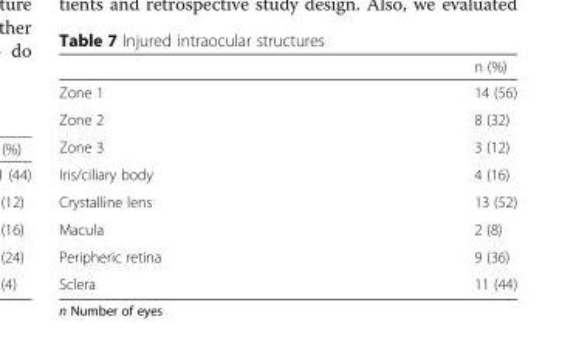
<table><thead><tr><td></td><td>n (%)</td></tr></thead><tbody><tr><td>Zone 1</td><td>14 (56)</td></tr><tr><td>Zone 2</td><td>8 (32)</td></tr><tr><td>Zone 3</td><td>3 (12)</td></tr><tr><td>Iris/ciliary body</td><td>4 (16)</td></tr><tr><td>Crystalline lens</td><td>13 (52)</td></tr><tr><td>Macula</td><td>2 (8)</td></tr><tr><td>Peripheric retina</td><td>9 (36)</td></tr><tr><td>Sclera</td><td>11 (44)</td></tr></tbody></table>